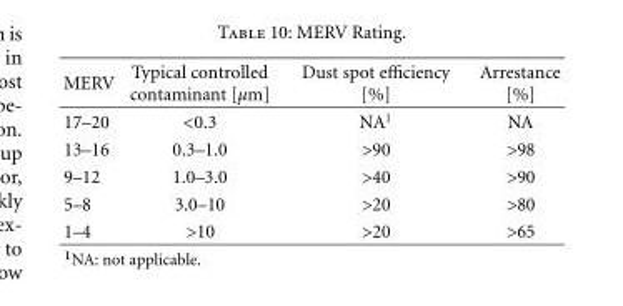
<table><thead><tr><td>MERV</td><td>Typical controlled contaminant [μm]</td><td>Dust spot efficiency [%]</td><td>Arrestance [%]</td></tr></thead><tbody><tr><td>17–20</td><td>&lt;0.3</td><td>NA<sup>1</sup></td><td>NA</td></tr><tr><td>13–16</td><td>0.3–1.0</td><td>&gt;90</td><td>&gt;98</td></tr><tr><td>9–12</td><td>1.0–3.0</td><td>&gt;40</td><td>&gt;90</td></tr><tr><td>5–8</td><td>3.0–10</td><td>&gt;20</td><td>&gt;80</td></tr><tr><td>1–4</td><td>&gt;10</td><td>&gt;20</td><td>&gt;65</td></tr></tbody></table>